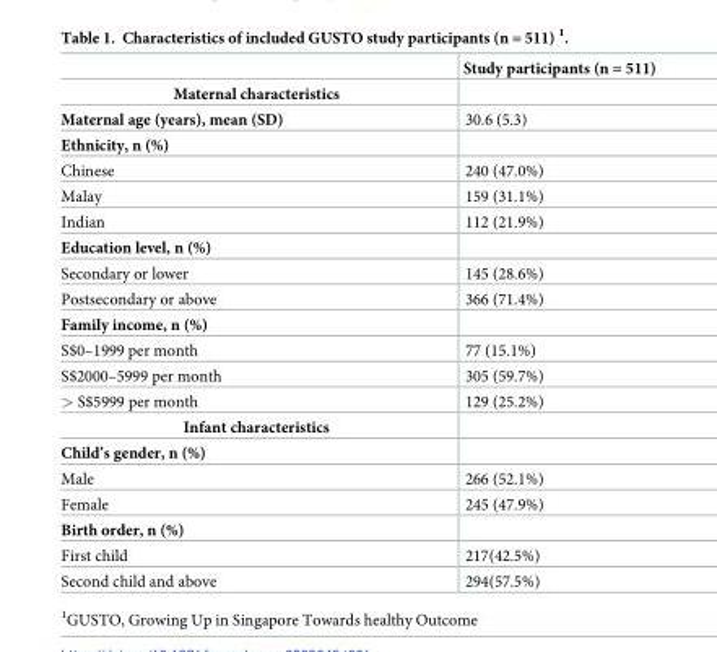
<table><thead><tr><td></td><td>Study participants (n = 511)</td></tr></thead><tbody><tr><td colspan="2">Maternal characteristics</td></tr><tr><td>Maternal age (years), mean (SD)</td><td>30.6 (5.3)</td></tr><tr><td colspan="2">Ethnicity, n (%)</td></tr><tr><td>Chinese</td><td>240 (47.0%)</td></tr><tr><td>Malay</td><td>159 (31.1%)</td></tr><tr><td>Indian</td><td>112 (21.9%)</td></tr><tr><td colspan="2">Education level, n (%)</td></tr><tr><td>Secondary or lower</td><td>145 (28.6%)</td></tr><tr><td>Postsecondary or above</td><td>366 (71.4%)</td></tr><tr><td colspan="2">Family income, n (%)</td></tr><tr><td>S$0–1999 per month</td><td>77 (15.1%)</td></tr><tr><td>S$2000–5999 per month</td><td>305 (59.7%)</td></tr><tr><td>&gt; S$5999 per month</td><td>129 (25.2%)</td></tr><tr><td colspan="2">Infant characteristics</td></tr><tr><td colspan="2">Child’s gender, n (%)</td></tr><tr><td>Male</td><td>266 (52.1%)</td></tr><tr><td>Female</td><td>245 (47.9%)</td></tr><tr><td colspan="2">Birth order, n (%)</td></tr><tr><td>First child</td><td>217(42.5%)</td></tr><tr><td>Second child and above</td><td>294(57.5%)</td></tr></tbody></table>